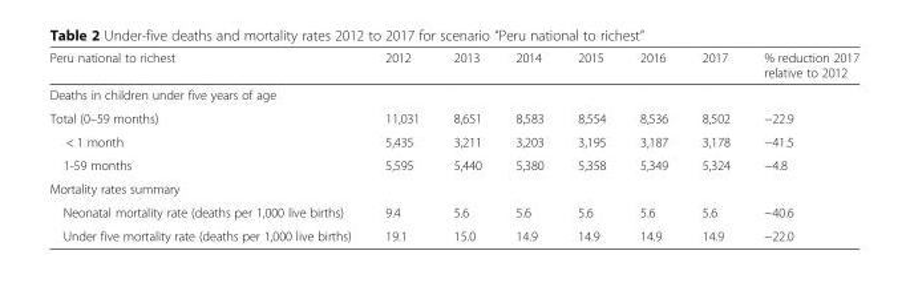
<table><thead><tr><td>Peru national to richest</td><td>2012</td><td>2013</td><td>2014</td><td>2015</td><td>2016</td><td>2017</td><td>% reduction 2017 relative to 2012</td></tr></thead><tbody><tr><td colspan="8">Deaths in children under five years of age</td></tr><tr><td>Total (0–59 months)</td><td>11,031</td><td>8,651</td><td>8,583</td><td>8,554</td><td>8,536</td><td>8,502</td><td>−22.9</td></tr><tr><td>&lt; 1 month</td><td>5,435</td><td>3,211</td><td>3,203</td><td>3,195</td><td>3,187</td><td>3,178</td><td>−41.5</td></tr><tr><td>1-59 months</td><td>5,595</td><td>5,440</td><td>5,380</td><td>5,358</td><td>5,349</td><td>5,324</td><td>−4.8</td></tr><tr><td colspan="8">Mortality rates summary</td></tr><tr><td>Neonatal mortality rate (deaths per 1,000 live births)</td><td>9.4</td><td>5.6</td><td>5.6</td><td>5.6</td><td>5.6</td><td>5.6</td><td>−40.6</td></tr><tr><td>Under five mortality rate (deaths per 1,000 live births)</td><td>19.1</td><td>15.0</td><td>14.9</td><td>14.9</td><td>14.9</td><td>14.9</td><td>−22.0</td></tr></tbody></table>